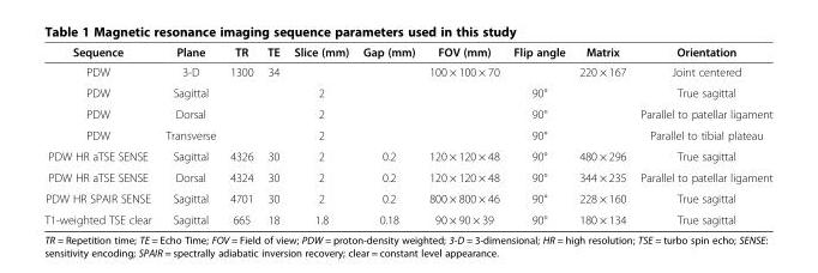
<table><thead><tr><td>Sequence</td><td>Plane</td><td>TR</td><td>TE</td><td>Slice (mm)</td><td>Gap (mm)</td><td>FOV (mm)</td><td>Flip angle</td><td>Matrix</td><td>Orientation</td></tr></thead><tbody><tr><td>PDW</td><td>3-D</td><td>1300</td><td>34</td><td></td><td></td><td>100 × 100 × 70</td><td></td><td>220 × 167</td><td>Joint centered</td></tr><tr><td>PDW</td><td>Sagittal</td><td></td><td></td><td>2</td><td></td><td></td><td>90°</td><td></td><td>True sagittal</td></tr><tr><td>PDW</td><td>Dorsal</td><td></td><td></td><td>2</td><td></td><td></td><td>90°</td><td></td><td>Parallel to patellar ligament</td></tr><tr><td>PDW</td><td>Transverse</td><td></td><td></td><td>2</td><td></td><td></td><td>90°</td><td></td><td>Parallel to tibial plateau</td></tr><tr><td>PDW HR aTSE SENSE</td><td>Sagittal</td><td>4326</td><td>30</td><td>2</td><td>0.2</td><td>120 × 120 × 48</td><td>90°</td><td>480 × 296</td><td>True sagittal</td></tr><tr><td>PDW HR aTSE SENSE</td><td>Dorsal</td><td>4324</td><td>30</td><td>2</td><td>0.2</td><td>120 × 120 × 48</td><td>90°</td><td>344 × 235</td><td>Parallel to patellar ligament</td></tr><tr><td>PDW HR SPAIR SENSE</td><td>Sagittal</td><td>4701</td><td>30</td><td>2</td><td>0.2</td><td>800 × 800 × 46</td><td>90°</td><td>228 × 160</td><td>True sagittal</td></tr><tr><td>T1-weighted TSE clear</td><td>Sagittal</td><td>665</td><td>18</td><td>1.8</td><td>0.18</td><td>90 × 90 × 39</td><td>90°</td><td>180 × 134</td><td>True sagittal</td></tr></tbody></table>